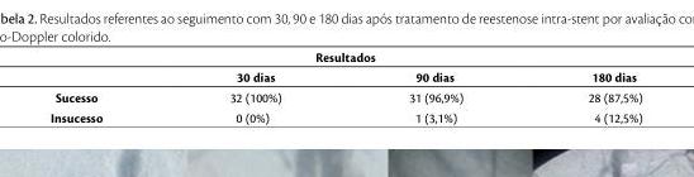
<table><thead><tr><td colspan="4">Resultados</td></tr><tr><td></td><td>30 dias</td><td>90 dias</td><td>180 dias</td></tr></thead><tbody><tr><td>Sucesso</td><td>32 (100%)</td><td>31 (96,9%)</td><td>28 (87,5%)</td></tr><tr><td>Insucesso</td><td>0 (0%)</td><td>1 (3,1%)</td><td>4 (12,5%)</td></tr></tbody></table>